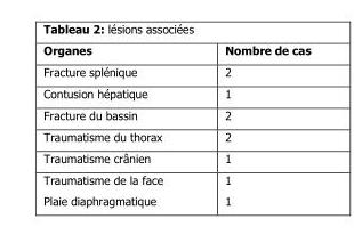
<table><thead><tr><td>Organes</td><td>Nombre de cas</td></tr></thead><tbody><tr><td>Fracture splénique</td><td>2</td></tr><tr><td>Contusion hépatique</td><td>1</td></tr><tr><td>Fracture du bassin</td><td>2</td></tr><tr><td>Traumatisme du thorax</td><td>2</td></tr><tr><td>Traumatisme crânien</td><td>1</td></tr><tr><td>Traumatisme de la face Plaie diaphragmatique</td><td>1 1</td></tr></tbody></table>